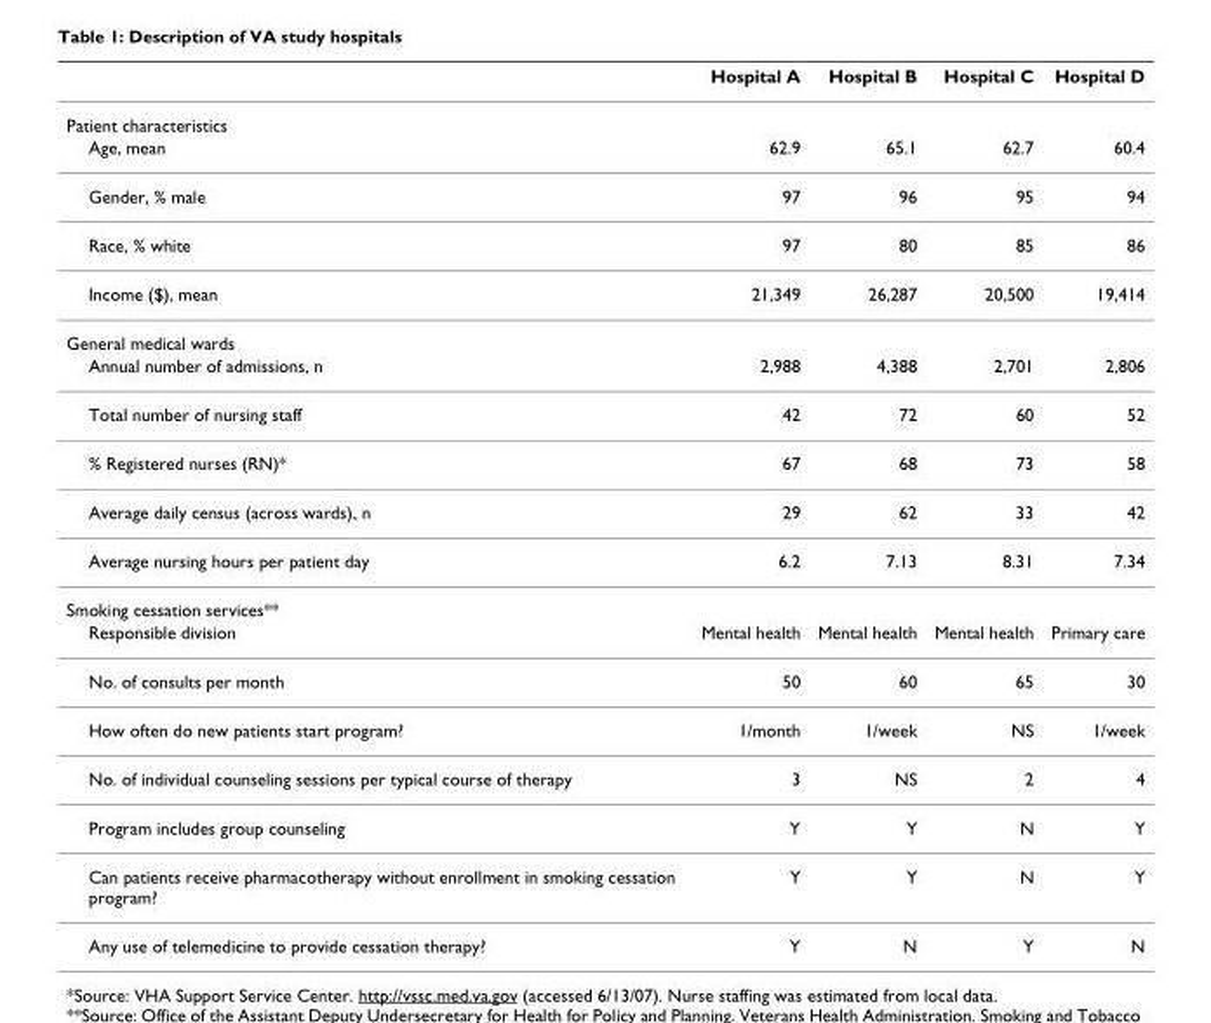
<table><thead><tr><td></td><td>Hospital A</td><td>Hospital B</td><td>Hospital C</td><td>Hospital D</td></tr></thead><tbody><tr><td colspan="5">Patient characteristics</td></tr><tr><td>Age, mean</td><td>62.9</td><td>65.1</td><td>62.7</td><td>60.4</td></tr><tr><td>Gender, % male</td><td>97</td><td>96</td><td>95</td><td>94</td></tr><tr><td>Race, % white</td><td>97</td><td>80</td><td>85</td><td>86</td></tr><tr><td>Income ($), mean</td><td>21,349</td><td>26,287</td><td>20,500</td><td>19,414</td></tr><tr><td colspan="5">General medical wards</td></tr><tr><td>Annual number of admissions, n</td><td>2,988</td><td>4,388</td><td>2,701</td><td>2,806</td></tr><tr><td>Total number of nursing staff</td><td>42</td><td>72</td><td>60</td><td>52</td></tr><tr><td>% Registered nurses (RN)*</td><td>67</td><td>68</td><td>73</td><td>58</td></tr><tr><td>Average daily census (across wards), n</td><td>29</td><td>62</td><td>33</td><td>42</td></tr><tr><td>Average nursing hours per patient day</td><td>6.2</td><td>7.13</td><td>8.31</td><td>7.34</td></tr><tr><td colspan="5">Smoking cessation services**</td></tr><tr><td>Responsible division</td><td>Mental health</td><td>Mental health</td><td>Mental health</td><td>Primary care</td></tr><tr><td>No. of consults per month</td><td>50</td><td>60</td><td>65</td><td>30</td></tr><tr><td>How often do new patients start program?</td><td>1/month</td><td>1/week</td><td>NS</td><td>1/week</td></tr><tr><td>No. of individual counseling sessions per typical course of therapy</td><td>3</td><td>NS</td><td>2</td><td>4</td></tr><tr><td>Program includes group counseling</td><td>Y</td><td>Y</td><td>N</td><td>Y</td></tr><tr><td>Can patients receive pharmacotherapy without enrollment in smoking cessation program?</td><td>Y</td><td>Y</td><td>N</td><td>Y</td></tr><tr><td>Any use of telemedicine to provide cessation therapy?</td><td>Y</td><td>N</td><td>Y</td><td>N</td></tr></tbody></table>